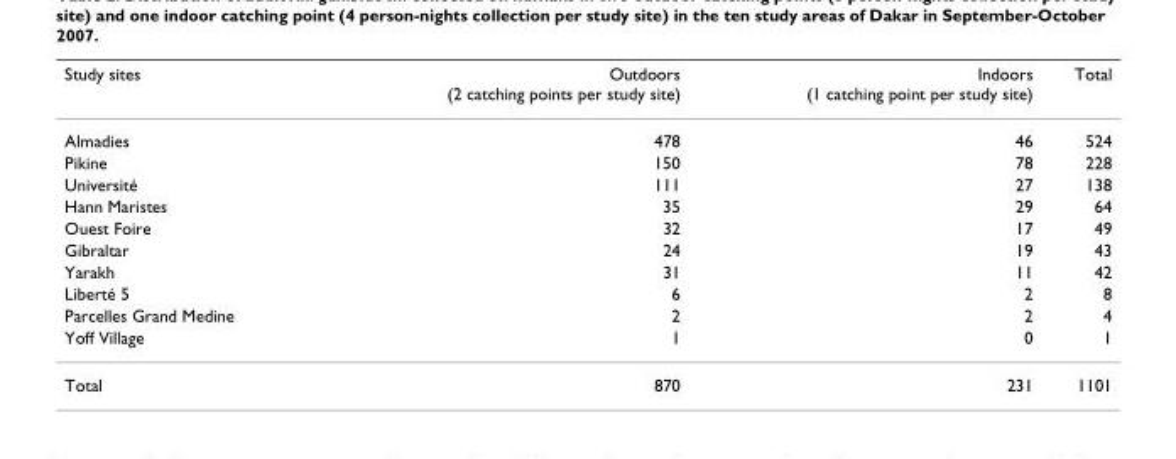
<table><thead><tr><td>Study sites</td><td>Outdoors (2 catching points per study site)</td><td>Indoors (1 catching point per study site)</td><td>Total</td></tr></thead><tbody><tr><td>Almadies</td><td>478</td><td>46</td><td>524</td></tr><tr><td>Pikine</td><td>150</td><td>78</td><td>228</td></tr><tr><td>Université</td><td>111</td><td>27</td><td>138</td></tr><tr><td>Hann Maristes</td><td>35</td><td>29</td><td>64</td></tr><tr><td>Ouest Foire</td><td>32</td><td>17</td><td>49</td></tr><tr><td>Gibraltar</td><td>24</td><td>19</td><td>43</td></tr><tr><td>Yarakh</td><td>31</td><td>11</td><td>42</td></tr><tr><td>Liberté 5</td><td>6</td><td>2</td><td>8</td></tr><tr><td>Parcelles Grand Medine</td><td>2</td><td>2</td><td>4</td></tr><tr><td>Yoff Village</td><td>1</td><td>0</td><td>1</td></tr><tr><td>Total</td><td>870</td><td>231</td><td>1101</td></tr></tbody></table>